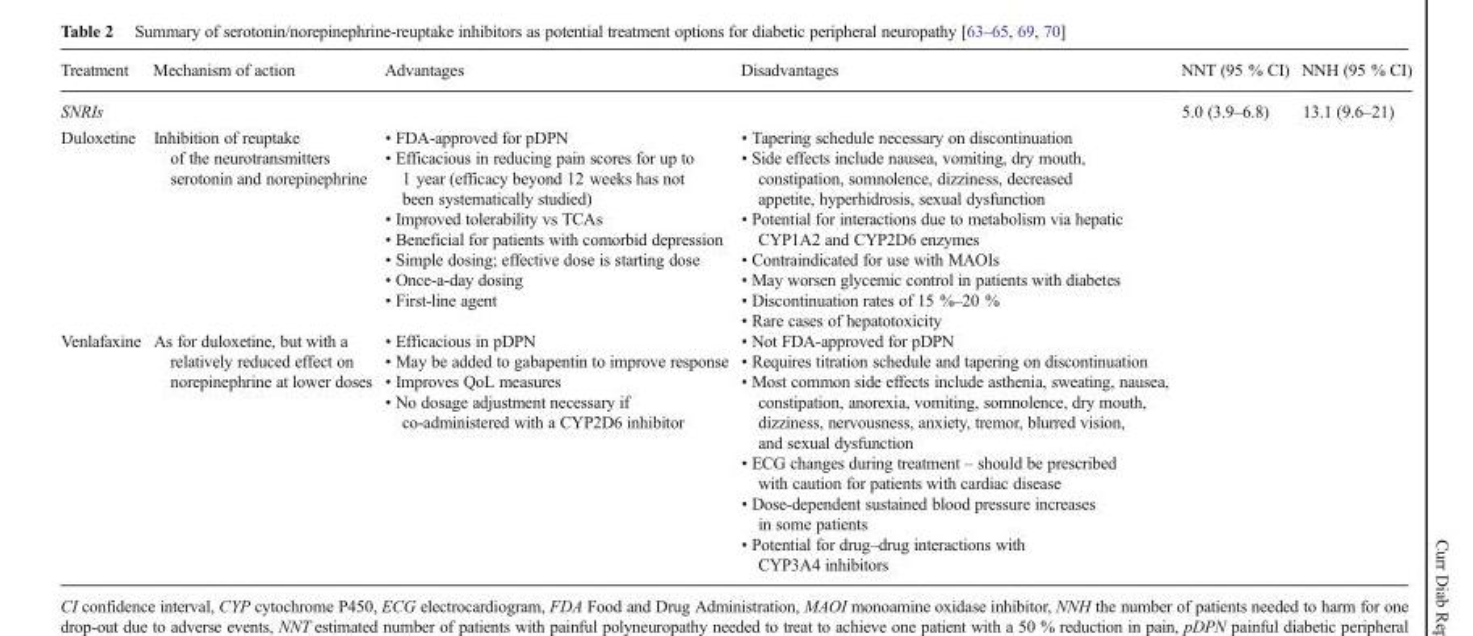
<table><thead><tr><td>Treatment</td><td>Mechanism of action</td><td>Advantages</td><td>Disadvantages</td><td>NNT (95 % CI)</td><td>NNH (95 % CI)</td></tr></thead><tbody><tr><td>SNRIs</td><td></td><td></td><td></td><td>5.0 (3.9–6.8)</td><td>13.1 (9.6–21)</td></tr><tr><td>Duloxetine</td><td>Inhibition of reuptake of the neurotransmitters serotonin and norepinephrine</td><td>• FDA-approved for pDPN • Efficacious in reducing pain scores for up to 1 year (efficacy beyond 12 weeks has not been systematically studied) • Improved tolerability vs TCAs • Beneficial for patients with comorbid depression • Simple dosing; effective dose is starting dose • Once-a-day dosing • First-line agent</td><td>• Tapering schedule necessary on discontinuation • Side effects include nausea, vomiting, dry mouth, constipation, somnolence, dizziness, decreased appetite, hyperhidrosis, sexual dysfunction • Potential for interactions due to metabolism via hepatic CYP1A2 and CYP2D6 enzymes • Contraindicated for use with MAOIs • May worsen glycemic control in patients with diabetes • Discontinuation rates of 15 %–20 % • Rare cases of hepatotoxicity</td><td></td><td></td></tr><tr><td>Venlafaxine</td><td>As for duloxetine, but with a relatively reduced effect on norepinephrine at lower doses</td><td>• Efficacious in pDPN • May be added to gabapentin to improve response • Improves QoL measures • No dosage adjustment necessary if co-administered with a CYP2D6 inhibitor</td><td>• Not FDA-approved for pDPN • Requires titration schedule and tapering on discontinuation • Most common side effects include asthenia, sweating, nausea, constipation, anorexia, vomiting, somnolence, dry mouth, dizziness, nervousness, anxiety, tremor, blurred vision, and sexual dysfunction • ECG changes during treatment – should be prescribed with caution for patients with cardiac disease • Dose-dependent sustained blood pressure increases in some patients • Potential for drug–drug interactions with CYP3A4 inhibitors</td><td></td><td></td></tr></tbody></table>